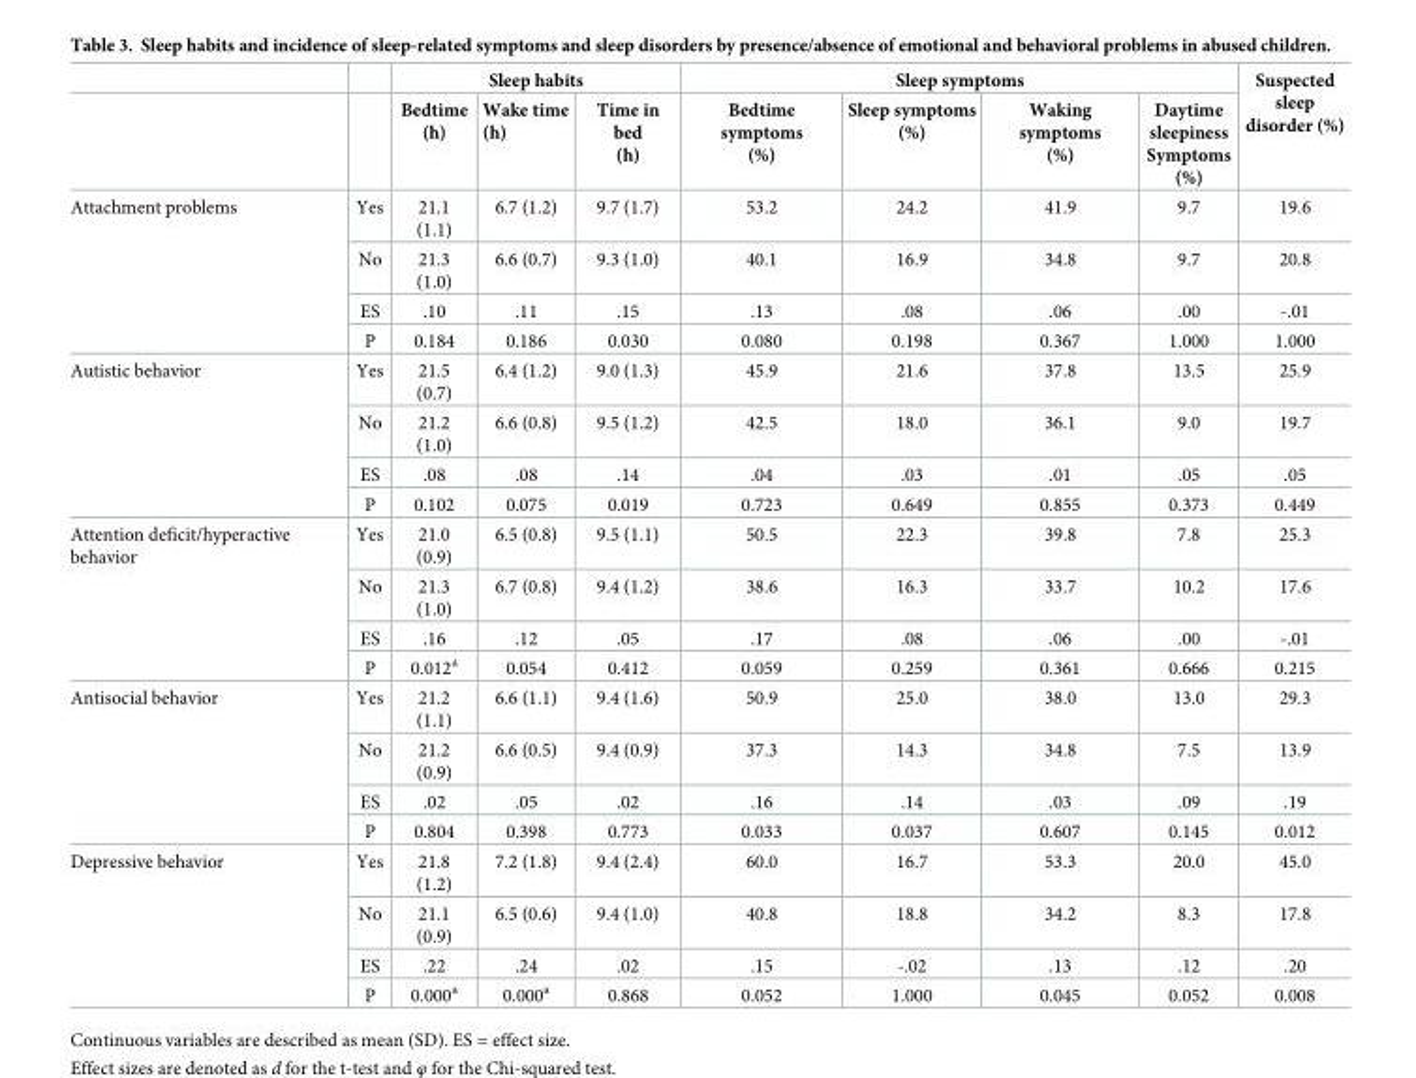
<table><thead><tr><td rowspan="2"></td><td rowspan="2"></td><td colspan="3">Sleep habits</td><td colspan="4">Sleep symptoms</td><td rowspan="2">Suspected sleep disorder (%)</td></tr><tr><td>Bedtime (h)</td><td>Wake time (h)</td><td>Time in bed (h)</td><td>Bedtime symptoms (%)</td><td>Sleep symptoms (%)</td><td>Waking symptoms (%)</td><td>Daytime sleepiness Symptoms (%)</td></tr></thead><tbody><tr><td rowspan="4">Attachment problems</td><td>Yes</td><td>21.1 (1.1)</td><td>6.7 (1.2)</td><td>9.7 (1.7)</td><td>53.2</td><td>24.2</td><td>41.9</td><td>9.7</td><td>19.6</td></tr><tr><td>No</td><td>21.3 (1.0)</td><td>6.6 (0.7)</td><td>9.3 (1.0)</td><td>40.1</td><td>16.9</td><td>34.8</td><td>9.7</td><td>20.8</td></tr><tr><td>ES</td><td>.10</td><td>.11</td><td>.15</td><td>.13</td><td>.08</td><td>.06</td><td>.00</td><td>-.01</td></tr><tr><td>P</td><td>0.184</td><td>0.186</td><td>0.030</td><td>0.080</td><td>0.198</td><td>0.367</td><td>1.000</td><td>1.000</td></tr><tr><td rowspan="4">Autistic behavior</td><td>Yes</td><td>21.5 (0.7)</td><td>6.4 (1.2)</td><td>9.0 (1.3)</td><td>45.9</td><td>21.6</td><td>37.8</td><td>13.5</td><td>25.9</td></tr><tr><td>No</td><td>21.2 (1.0)</td><td>6.6 (0.8)</td><td>9.5 (1.2)</td><td>42.5</td><td>18.0</td><td>36.1</td><td>9.0</td><td>19.7</td></tr><tr><td>ES</td><td>.08</td><td>.08</td><td>.14</td><td>.04</td><td>.03</td><td>.01</td><td>.05</td><td>.05</td></tr><tr><td>P</td><td>0.102</td><td>0.075</td><td>0.019</td><td>0.723</td><td>0.649</td><td>0.855</td><td>0.373</td><td>0.449</td></tr><tr><td rowspan="4">Attention deficit/hyperactive behavior</td><td>Yes</td><td>21.0 (0.9)</td><td>6.5 (0.8)</td><td>9.5 (1.1)</td><td>50.5</td><td>22.3</td><td>39.8</td><td>7.8</td><td>25.3</td></tr><tr><td>No</td><td>21.3 (1.0)</td><td>6.7 (0.8)</td><td>9.4 (1.2)</td><td>38.6</td><td>16.3</td><td>33.7</td><td>10.2</td><td>17.6</td></tr><tr><td>ES</td><td>.16</td><td>.12</td><td>.05</td><td>.17</td><td>.08</td><td>.06</td><td>.00</td><td>-.01</td></tr><tr><td>P</td><td>0.012<sup>a</sup></td><td>0.054</td><td>0.412</td><td>0.059</td><td>0.259</td><td>0.361</td><td>0.666</td><td>0.215</td></tr><tr><td rowspan="4">Antisocial behavior</td><td>Yes</td><td>21.2 (1.1)</td><td>6.6 (1.1)</td><td>9.4 (1.6)</td><td>50.9</td><td>25.0</td><td>38.0</td><td>13.0</td><td>29.3</td></tr><tr><td>No</td><td>21.2 (0.9)</td><td>6.6 (0.5)</td><td>9.4 (0.9)</td><td>37.3</td><td>14.3</td><td>34.8</td><td>7.5</td><td>13.9</td></tr><tr><td>ES</td><td>.02</td><td>.05</td><td>.02</td><td>.16</td><td>.14</td><td>.03</td><td>.09</td><td>.19</td></tr><tr><td>P</td><td>0.804</td><td>0.398</td><td>0.773</td><td>0.033</td><td>0.037</td><td>0.607</td><td>0.145</td><td>0.012</td></tr><tr><td rowspan="4">Depressive behavior</td><td>Yes</td><td>21.8 (1.2)</td><td>7.2 (1.8)</td><td>9.4 (2.4)</td><td>60.0</td><td>16.7</td><td>53.3</td><td>20.0</td><td>45.0</td></tr><tr><td>No</td><td>21.1 (0.9)</td><td>6.5 (0.6)</td><td>9.4 (1.0)</td><td>40.8</td><td>18.8</td><td>34.2</td><td>8.3</td><td>17.8</td></tr><tr><td>ES</td><td>.22</td><td>.24</td><td>.02</td><td>.15</td><td>-.02</td><td>.13</td><td>.12</td><td>.20</td></tr><tr><td>P</td><td>0.000<sup>a</sup></td><td>0.000<sup>a</sup></td><td>0.868</td><td>0.052</td><td>1.000</td><td>0.045</td><td>0.052</td><td>0.008</td></tr></tbody></table>